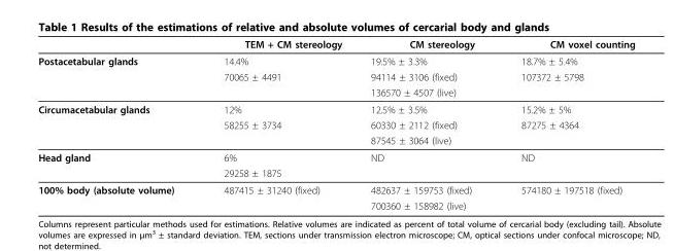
<table><thead><tr><td></td><td>TEM + CM stereology</td><td>CM stereology</td><td>CM voxel counting</td></tr></thead><tbody><tr><td rowspan="3">Postacetabular glands</td><td>14.4%</td><td>19.5% ± 3.3%</td><td>18.7% ± 5.4%</td></tr><tr><td>70065 ± 4491</td><td>94114 ± 3106 (fixed)</td><td>107372 ± 5798</td></tr><tr><td></td><td>136570 ± 4507 (live)</td><td></td></tr><tr><td rowspan="3">Circumacetabular glands</td><td>12%</td><td>12.5% ± 3.5%</td><td>15.2% ± 5%</td></tr><tr><td>58255 ± 3734</td><td>60330 ± 2112 (fixed)</td><td>87275 ± 4364</td></tr><tr><td></td><td>87545 ± 3064 (live)</td><td></td></tr><tr><td rowspan="2">Head gland</td><td>6%</td><td>ND</td><td>ND</td></tr><tr><td>29258 ± 1875</td><td></td><td></td></tr><tr><td rowspan="2">100% body (absolute volume)</td><td>487415 ± 31240 (fixed)</td><td>482637 ± 159753 (fixed)</td><td>574180 ± 197518 (fixed)</td></tr><tr><td></td><td>700360 ± 158982 (live)</td><td></td></tr></tbody></table>